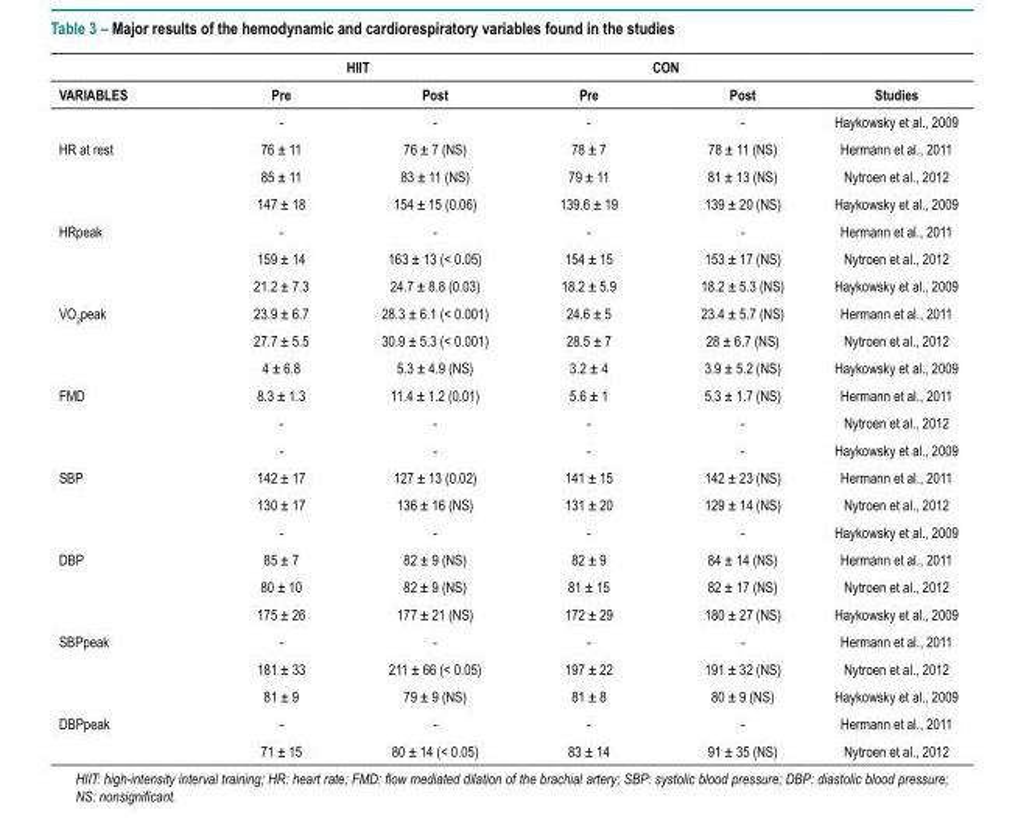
<table><thead><tr><td rowspan="2">VARIABLES</td><td colspan="2">HIIT</td><td colspan="2">CON</td><td rowspan="2">Studies</td></tr><tr><td>Pre</td><td>Post</td><td>Pre</td><td>Post</td></tr></thead><tbody><tr><td rowspan="3">HR at rest</td><td>-</td><td>-</td><td>-</td><td>-</td><td>Haykowsky et al., 2009</td></tr><tr><td>76 ± 11</td><td>76 ± 7 (NS)</td><td>78 ± 7</td><td>78 ± 11 (NS)</td><td>Hermann et al., 2011</td></tr><tr><td>85 ± 11</td><td>83 ± 11 (NS)</td><td>79 ± 11</td><td>81 ± 13 (NS)</td><td>Nytroen et al., 2012</td></tr><tr><td rowspan="3">HRpeak</td><td>147 ± 18</td><td>154 ± 15 (0.06)</td><td>139.6 ± 19</td><td>139 ± 20 (NS)</td><td>Haykowsky et al., 2009</td></tr><tr><td>-</td><td>-</td><td>-</td><td>-</td><td>Hermann et al., 2011</td></tr><tr><td>159 ± 14</td><td>163 ± 13 (&lt; 0.05)</td><td>154 ± 15</td><td>153 ± 17 (NS)</td><td>Nytroen et al., 2012</td></tr><tr><td rowspan="3">VO<sub>2</sub>peak</td><td>21.2 ± 7.3</td><td>24.7 ± 8.8 (0.03)</td><td>18.2 ± 5.9</td><td>18.2 ± 5.3 (NS)</td><td>Haykowsky et al., 2009</td></tr><tr><td>23.9 ± 6.7</td><td>28.3 ± 6.1 (&lt; 0.001)</td><td>24.6 ± 5</td><td>23.4 ± 5.7 (NS)</td><td>Hermann et al., 2011</td></tr><tr><td>27.7 ± 5.5</td><td>30.9 ± 5.3 (&lt; 0.001)</td><td>28.5 ± 7</td><td>28 ± 6.7 (NS)</td><td>Nytroen et al., 2012</td></tr><tr><td rowspan="3">FMD</td><td>4 ± 6.8</td><td>5.3 ± 4.9 (NS)</td><td>3.2 ± 4</td><td>3.9 ± 5.2 (NS)</td><td>Haykowsky et al., 2009</td></tr><tr><td>8.3 ± 1.3</td><td>11.4 ± 1.2 (0.01)</td><td>5.6 ± 1</td><td>5.3 ± 1.7 (NS)</td><td>Hermann et al., 2011</td></tr><tr><td>-</td><td>-</td><td>-</td><td>-</td><td>Nytroen et al., 2012</td></tr><tr><td rowspan="3">SBP</td><td>-</td><td>-</td><td>-</td><td>-</td><td>Haykowsky et al., 2009</td></tr><tr><td>142 ± 17</td><td>127 ± 13 (0.02)</td><td>141 ± 15</td><td>142 ± 23 (NS)</td><td>Hermann et al., 2011</td></tr><tr><td>130 ± 17</td><td>136 ± 16 (NS)</td><td>131 ± 20</td><td>129 ± 14 (NS)</td><td>Nytroen et al., 2012</td></tr><tr><td rowspan="3">DBP</td><td>-</td><td>-</td><td>-</td><td>-</td><td>Haykowsky et al., 2009</td></tr><tr><td>85 ± 7</td><td>82 ± 9 (NS)</td><td>82 ± 9</td><td>84 ± 14 (NS)</td><td>Hermann et al., 2011</td></tr><tr><td>80 ± 10</td><td>82 ± 9 (NS)</td><td>81 ± 15</td><td>82 ± 17 (NS)</td><td>Nytroen et al., 2012</td></tr><tr><td rowspan="3">SBPpeak</td><td>175 ± 26</td><td>177 ± 21 (NS)</td><td>172 ± 29</td><td>180 ± 27 (NS)</td><td>Haykowsky et al., 2009</td></tr><tr><td>-</td><td>-</td><td>-</td><td>-</td><td>Hermann et al., 2011</td></tr><tr><td>181 ± 33</td><td>211 ± 66 (&lt; 0.05)</td><td>197 ± 22</td><td>191 ± 32 (NS)</td><td>Nytroen et al., 2012</td></tr><tr><td rowspan="3">DBPpeak</td><td>81 ± 9</td><td>79 ± 9 (NS)</td><td>81 ± 8</td><td>80 ± 9 (NS)</td><td>Haykowsky et al., 2009</td></tr><tr><td>-</td><td>-</td><td>-</td><td>-</td><td>Hermann et al., 2011</td></tr><tr><td>71 ± 15</td><td>80 ± 14 (&lt; 0.05)</td><td>83 ± 14</td><td>91 ± 35 (NS)</td><td>Nytroen et al., 2012</td></tr></tbody></table>